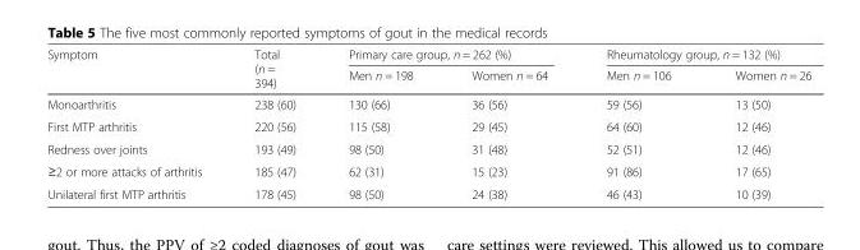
<table><thead><tr><td rowspan="2">Symptom</td><td rowspan="2">Total (n = 394)</td><td colspan="2">Primary care group, n = 262 (%)</td><td colspan="2">Rheumatology group, n = 132 (%)</td></tr><tr><td>Men n = 198</td><td>Women n = 64</td><td>Men n = 106</td><td>Women n = 26</td></tr></thead><tbody><tr><td>Monoarthritis</td><td>238 (60)</td><td>130 (66)</td><td>36 (56)</td><td>59 (56)</td><td>13 (50)</td></tr><tr><td>First MTP arthritis</td><td>220 (56)</td><td>115 (58)</td><td>29 (45)</td><td>64 (60)</td><td>12 (46)</td></tr><tr><td>Redness over joints</td><td>193 (49)</td><td>98 (50)</td><td>31 (48)</td><td>52 (51)</td><td>12 (46)</td></tr><tr><td>≥2 or more attacks of arthritis</td><td>185 (47)</td><td>62 (31)</td><td>15 (23)</td><td>91 (86)</td><td>17 (65)</td></tr><tr><td>Unilateral first MTP arthritis</td><td>178 (45)</td><td>98 (50)</td><td>24 (38)</td><td>46 (43)</td><td>10 (39)</td></tr></tbody></table>